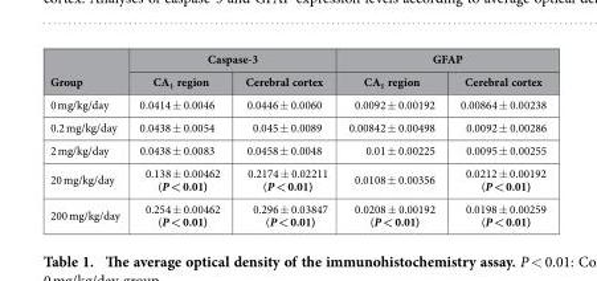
<table><thead><tr><td rowspan="2">Group</td><td colspan="2">Caspase-3</td><td colspan="2">GFAP</td></tr><tr><td>CA<sub>1</sub> region</td><td>Cerebral cortex</td><td>CA<sub>1</sub> region</td><td>Cerebral cortex</td></tr></thead><tbody><tr><td>0 mg/kg/day</td><td>0.0414 ± 0.0046</td><td>0.0446 ± 0.0060</td><td>0.0092 ± 0.00192</td><td>0.00864 ± 0.00238</td></tr><tr><td>0.2 mg/kg/day</td><td>0.0438 ± 0.0054</td><td>0.045 ± 0.0089</td><td>0.00842 ± 0.00498</td><td>0.0092 ± 0.00286</td></tr><tr><td>2 mg/kg/day</td><td>0.0438 ± 0.0083</td><td>0.0458 ± 0.0048</td><td>0.01 ± 0.00225</td><td>0.0095 ± 0.00255</td></tr><tr><td>20 mg/kg/day</td><td>0.138 ± 0.00462 (P &lt; 0.01)</td><td>0.2174 ± 0.02211 (P &lt; 0.01)</td><td>0.0108 ± 0.00356</td><td>0.0212 ± 0.00192 (P &lt; 0.01)</td></tr><tr><td>200 mg/kg/day</td><td>0.254 ± 0.00462 (P &lt; 0.01)</td><td>0.296 ± 0.03847 (P &lt; 0.01)</td><td>0.0208 ± 0.00192 (P &lt; 0.01)</td><td>0.0198 ± 0.00259 (P &lt; 0.01)</td></tr></tbody></table>